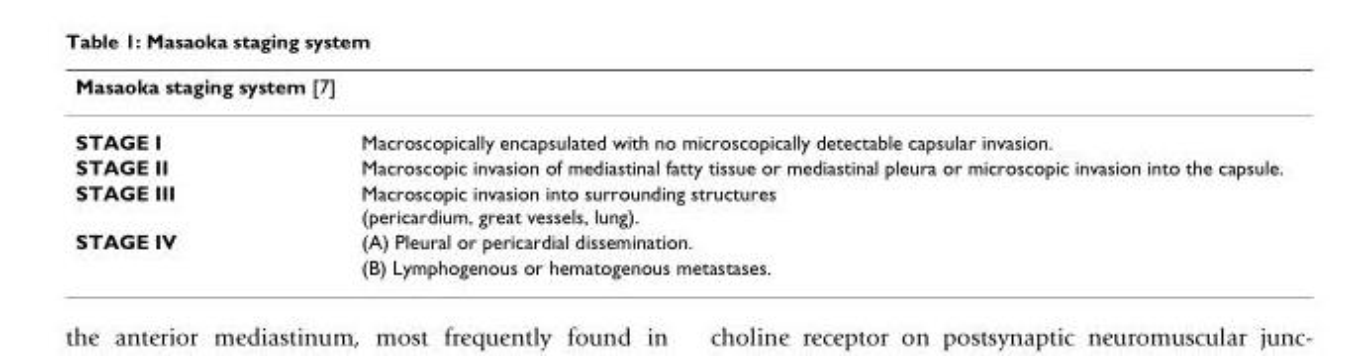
<table><thead><tr><td>Masaoka staging system [7]</td><td></td></tr></thead><tbody><tr><td>STAGE I</td><td>Macroscopically encapsulated with no microscopically detectable capsular invasion.</td></tr><tr><td>STAGE II</td><td>Macroscopic invasion of mediastinal fatty tissue or mediastinal pleura or microscopic invasion into the capsule.</td></tr><tr><td>STAGE III</td><td>Macroscopic invasion into surrounding structures (pericardium, great vessels, lung).</td></tr><tr><td rowspan="2">STAGE IV</td><td>(A) Pleural or pericardial dissemination.</td></tr><tr><td>(B) Lymphogenous or hematogenous metastases.</td></tr></tbody></table>